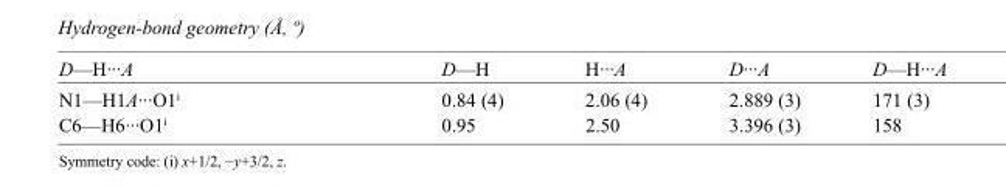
<table><tbody><tr><td>D—H···A</td><td>D—H</td><td>H···A</td><td>D···A</td><td>D—H···A</td></tr><tr><td>N1—H1A···O1<sup>i</sup></td><td>0.84 (4)</td><td>2.06 (4)</td><td>2.889 (3)</td><td>171 (3)</td></tr><tr><td>C6—H6···O1<sup>i</sup></td><td>0.95</td><td>2.50</td><td>3.396 (3)</td><td>158</td></tr></tbody></table>